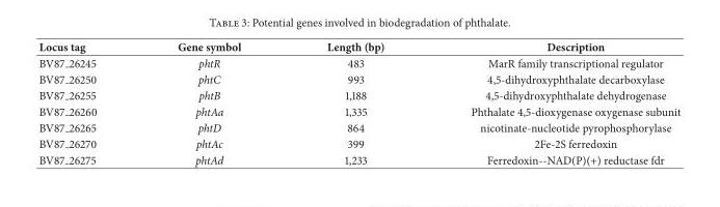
<table><thead><tr><td>Locus tag</td><td>Gene symbol</td><td>Length (bp)</td><td>Description</td></tr></thead><tbody><tr><td>BV87 26245</td><td>phtR</td><td>483</td><td>MarR family transcriptional regulator</td></tr><tr><td>BV87 26250</td><td>phtC</td><td>993</td><td>4,5-dihydroxyphthalate decarboxylase</td></tr><tr><td>BV87 26255</td><td>phtB</td><td>1,188</td><td>4,5-dihydroxyphthalate dehydrogenase</td></tr><tr><td>BV87 26260</td><td>phtAa</td><td>1,335</td><td>Phthalate 4,5-dioxygenase oxygenase subunit</td></tr><tr><td>BV87 26265</td><td>phtD</td><td>864</td><td>nicotinate-nucleotide pyrophosphorylase</td></tr><tr><td>BV87 26270</td><td>phtAc</td><td>399</td><td>2Fe-2S ferredoxin</td></tr><tr><td>BV87 26275</td><td>phtAd</td><td>1,233</td><td>Ferredoxin--NAD(P)(+) reductase fdr</td></tr></tbody></table>